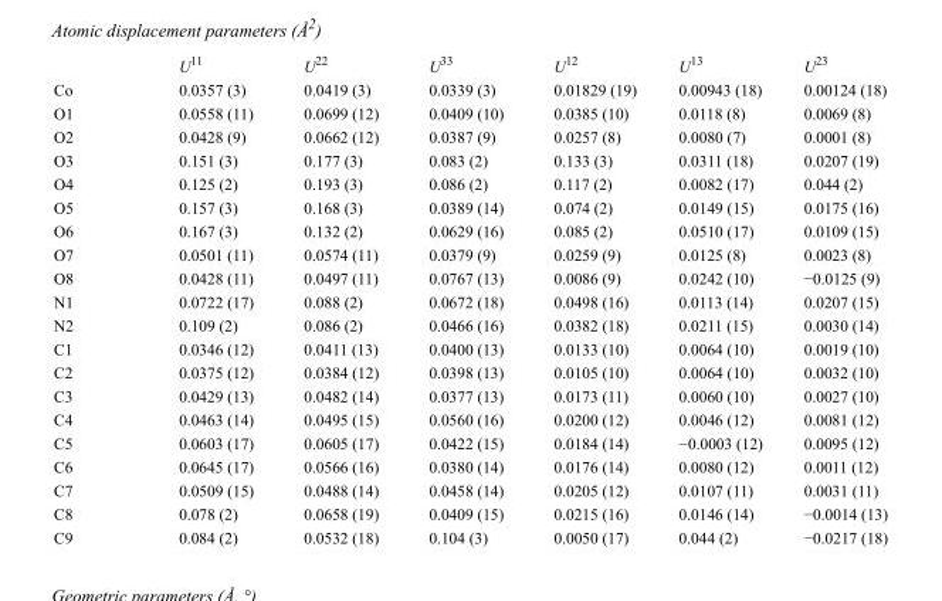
<table><thead><tr><td></td><td>U<sup>11</sup></td><td>U<sup>22</sup></td><td>U<sup>33</sup></td><td>U<sup>12</sup></td><td>U<sup>13</sup></td><td>U<sup>23</sup></td></tr></thead><tbody><tr><td>Co</td><td>0.0357 (3)</td><td>0.0419 (3)</td><td>0.0339 (3)</td><td>0.01829 (19)</td><td>0.00943 (18)</td><td>0.00124 (18)</td></tr><tr><td>O1</td><td>0.0558 (11)</td><td>0.0699 (12)</td><td>0.0409 (10)</td><td>0.0385 (10)</td><td>0.0118 (8)</td><td>0.0069 (8)</td></tr><tr><td>O2</td><td>0.0428 (9)</td><td>0.0662 (12)</td><td>0.0387 (9)</td><td>0.0257 (8)</td><td>0.0080 (7)</td><td>0.0001 (8)</td></tr><tr><td>O3</td><td>0.151 (3)</td><td>0.177 (3)</td><td>0.083 (2)</td><td>0.133 (3)</td><td>0.0311 (18)</td><td>0.0207 (19)</td></tr><tr><td>O4</td><td>0.125 (2)</td><td>0.193 (3)</td><td>0.086 (2)</td><td>0.117 (2)</td><td>0.0082 (17)</td><td>0.044 (2)</td></tr><tr><td>O5</td><td>0.157 (3)</td><td>0.168 (3)</td><td>0.0389 (14)</td><td>0.074 (2)</td><td>0.0149 (15)</td><td>0.0175 (16)</td></tr><tr><td>O6</td><td>0.167 (3)</td><td>0.132 (2)</td><td>0.0629 (16)</td><td>0.085 (2)</td><td>0.0510 (17)</td><td>0.0109 (15)</td></tr><tr><td>O7</td><td>0.0501 (11)</td><td>0.0574 (11)</td><td>0.0379 (9)</td><td>0.0259 (9)</td><td>0.0125 (8)</td><td>0.0023 (8)</td></tr><tr><td>O8</td><td>0.0428 (11)</td><td>0.0497 (11)</td><td>0.0767 (13)</td><td>0.0086 (9)</td><td>0.0242 (10)</td><td>−0.0125 (9)</td></tr><tr><td>N1</td><td>0.0722 (17)</td><td>0.088 (2)</td><td>0.0672 (18)</td><td>0.0498 (16)</td><td>0.0113 (14)</td><td>0.0207 (15)</td></tr><tr><td>N2</td><td>0.109 (2)</td><td>0.086 (2)</td><td>0.0466 (16)</td><td>0.0382 (18)</td><td>0.0211 (15)</td><td>0.0030 (14)</td></tr><tr><td>C1</td><td>0.0346 (12)</td><td>0.0411 (13)</td><td>0.0400 (13)</td><td>0.0133 (10)</td><td>0.0064 (10)</td><td>0.0019 (10)</td></tr><tr><td>C2</td><td>0.0375 (12)</td><td>0.0384 (12)</td><td>0.0398 (13)</td><td>0.0105 (10)</td><td>0.0064 (10)</td><td>0.0032 (10)</td></tr><tr><td>C3</td><td>0.0429 (13)</td><td>0.0482 (14)</td><td>0.0377 (13)</td><td>0.0173 (11)</td><td>0.0060 (10)</td><td>0.0027 (10)</td></tr><tr><td>C4</td><td>0.0463 (14)</td><td>0.0495 (15)</td><td>0.0560 (16)</td><td>0.0200 (12)</td><td>0.0046 (12)</td><td>0.0081 (12)</td></tr><tr><td>C5</td><td>0.0603 (17)</td><td>0.0605 (17)</td><td>0.0422 (15)</td><td>0.0184 (14)</td><td>−0.0003 (12)</td><td>0.0095 (12)</td></tr><tr><td>C6</td><td>0.0645 (17)</td><td>0.0566 (16)</td><td>0.0380 (14)</td><td>0.0176 (14)</td><td>0.0080 (12)</td><td>0.0011 (12)</td></tr><tr><td>C7</td><td>0.0509 (15)</td><td>0.0488 (14)</td><td>0.0458 (14)</td><td>0.0205 (12)</td><td>0.0107 (11)</td><td>0.0031 (11)</td></tr><tr><td>C8</td><td>0.078 (2)</td><td>0.0658 (19)</td><td>0.0409 (15)</td><td>0.0215 (16)</td><td>0.0146 (14)</td><td>−0.0014 (13)</td></tr><tr><td>C9</td><td>0.084 (2)</td><td>0.0532 (18)</td><td>0.104 (3)</td><td>0.0050 (17)</td><td>0.044 (2)</td><td>−0.0217 (18)</td></tr></tbody></table>